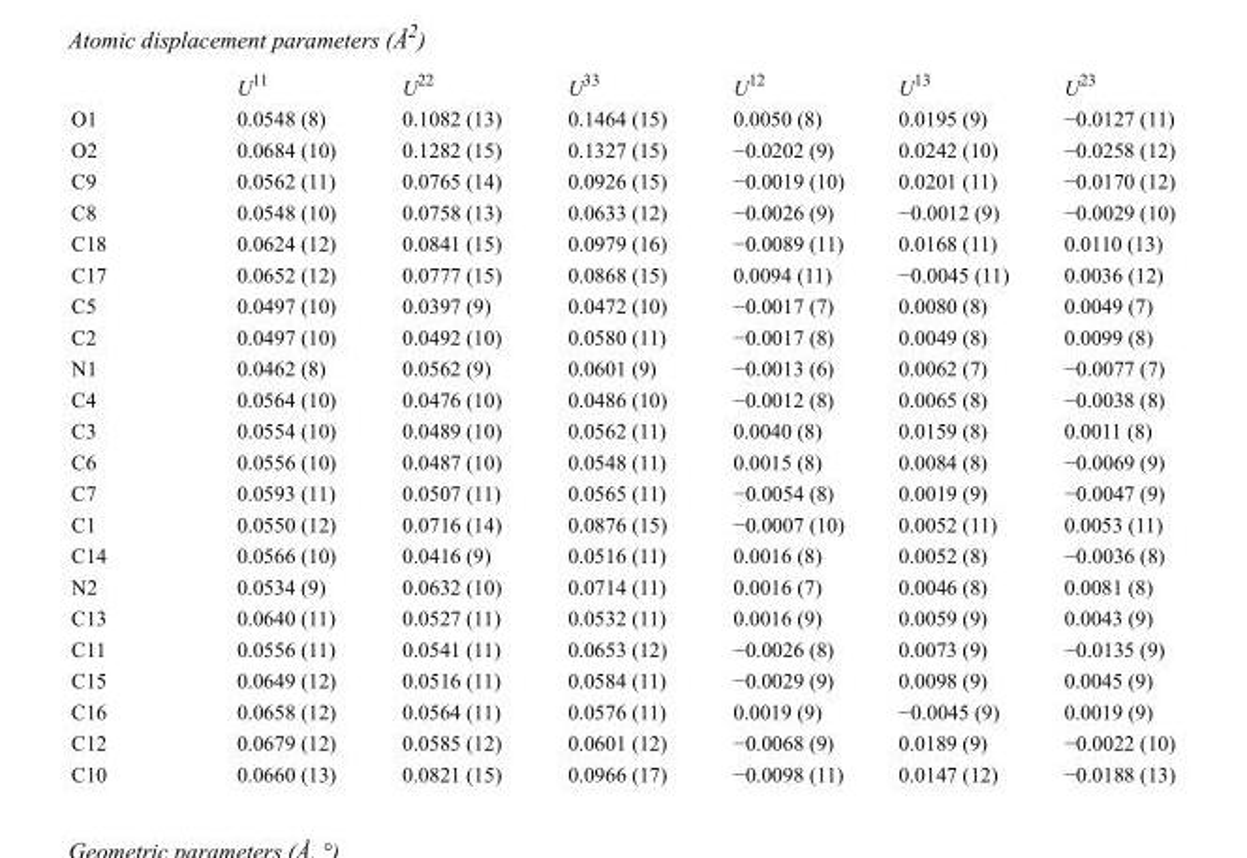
<table><thead><tr><td></td><td>U<sup>11</sup></td><td>U<sup>22</sup></td><td>U<sup>33</sup></td><td>U<sup>12</sup></td><td>U<sup>13</sup></td><td>U<sup>23</sup></td></tr></thead><tbody><tr><td>O1</td><td>0.0548 (8)</td><td>0.1082 (13)</td><td>0.1464 (15)</td><td>0.0050 (8)</td><td>0.0195 (9)</td><td>−0.0127 (11)</td></tr><tr><td>O2</td><td>0.0684 (10)</td><td>0.1282 (15)</td><td>0.1327 (15)</td><td>−0.0202 (9)</td><td>0.0242 (10)</td><td>−0.0258 (12)</td></tr><tr><td>C9</td><td>0.0562 (11)</td><td>0.0765 (14)</td><td>0.0926 (15)</td><td>−0.0019 (10)</td><td>0.0201 (11)</td><td>−0.0170 (12)</td></tr><tr><td>C8</td><td>0.0548 (10)</td><td>0.0758 (13)</td><td>0.0633 (12)</td><td>−0.0026 (9)</td><td>−0.0012 (9)</td><td>−0.0029 (10)</td></tr><tr><td>C18</td><td>0.0624 (12)</td><td>0.0841 (15)</td><td>0.0979 (16)</td><td>−0.0089 (11)</td><td>0.0168 (11)</td><td>0.0110 (13)</td></tr><tr><td>C17</td><td>0.0652 (12)</td><td>0.0777 (15)</td><td>0.0868 (15)</td><td>0.0094 (11)</td><td>−0.0045 (11)</td><td>0.0036 (12)</td></tr><tr><td>C5</td><td>0.0497 (10)</td><td>0.0397 (9)</td><td>0.0472 (10)</td><td>−0.0017 (7)</td><td>0.0080 (8)</td><td>0.0049 (7)</td></tr><tr><td>C2</td><td>0.0497 (10)</td><td>0.0492 (10)</td><td>0.0580 (11)</td><td>−0.0017 (8)</td><td>0.0049 (8)</td><td>0.0099 (8)</td></tr><tr><td>N1</td><td>0.0462 (8)</td><td>0.0562 (9)</td><td>0.0601 (9)</td><td>−0.0013 (6)</td><td>0.0062 (7)</td><td>−0.0077 (7)</td></tr><tr><td>C4</td><td>0.0564 (10)</td><td>0.0476 (10)</td><td>0.0486 (10)</td><td>−0.0012 (8)</td><td>0.0065 (8)</td><td>−0.0038 (8)</td></tr><tr><td>C3</td><td>0.0554 (10)</td><td>0.0489 (10)</td><td>0.0562 (11)</td><td>0.0040 (8)</td><td>0.0159 (8)</td><td>0.0011 (8)</td></tr><tr><td>C6</td><td>0.0556 (10)</td><td>0.0487 (10)</td><td>0.0548 (11)</td><td>0.0015 (8)</td><td>0.0084 (8)</td><td>−0.0069 (9)</td></tr><tr><td>C7</td><td>0.0593 (11)</td><td>0.0507 (11)</td><td>0.0565 (11)</td><td>−0.0054 (8)</td><td>0.0019 (9)</td><td>−0.0047 (9)</td></tr><tr><td>C1</td><td>0.0550 (12)</td><td>0.0716 (14)</td><td>0.0876 (15)</td><td>−0.0007 (10)</td><td>0.0052 (11)</td><td>0.0053 (11)</td></tr><tr><td>C14</td><td>0.0566 (10)</td><td>0.0416 (9)</td><td>0.0516 (11)</td><td>0.0016 (8)</td><td>0.0052 (8)</td><td>−0.0036 (8)</td></tr><tr><td>N2</td><td>0.0534 (9)</td><td>0.0632 (10)</td><td>0.0714 (11)</td><td>0.0016 (7)</td><td>0.0046 (8)</td><td>0.0081 (8)</td></tr><tr><td>C13</td><td>0.0640 (11)</td><td>0.0527 (11)</td><td>0.0532 (11)</td><td>0.0016 (9)</td><td>0.0059 (9)</td><td>0.0043 (9)</td></tr><tr><td>C11</td><td>0.0556 (11)</td><td>0.0541 (11)</td><td>0.0653 (12)</td><td>−0.0026 (8)</td><td>0.0073 (9)</td><td>−0.0135 (9)</td></tr><tr><td>C15</td><td>0.0649 (12)</td><td>0.0516 (11)</td><td>0.0584 (11)</td><td>−0.0029 (9)</td><td>0.0098 (9)</td><td>0.0045 (9)</td></tr><tr><td>C16</td><td>0.0658 (12)</td><td>0.0564 (11)</td><td>0.0576 (11)</td><td>0.0019 (9)</td><td>−0.0045 (9)</td><td>0.0019 (9)</td></tr><tr><td>C12</td><td>0.0679 (12)</td><td>0.0585 (12)</td><td>0.0601 (12)</td><td>−0.0068 (9)</td><td>0.0189 (9)</td><td>−0.0022 (10)</td></tr><tr><td>C10</td><td>0.0660 (13)</td><td>0.0821 (15)</td><td>0.0966 (17)</td><td>−0.0098 (11)</td><td>0.0147 (12)</td><td>−0.0188 (13)</td></tr></tbody></table>